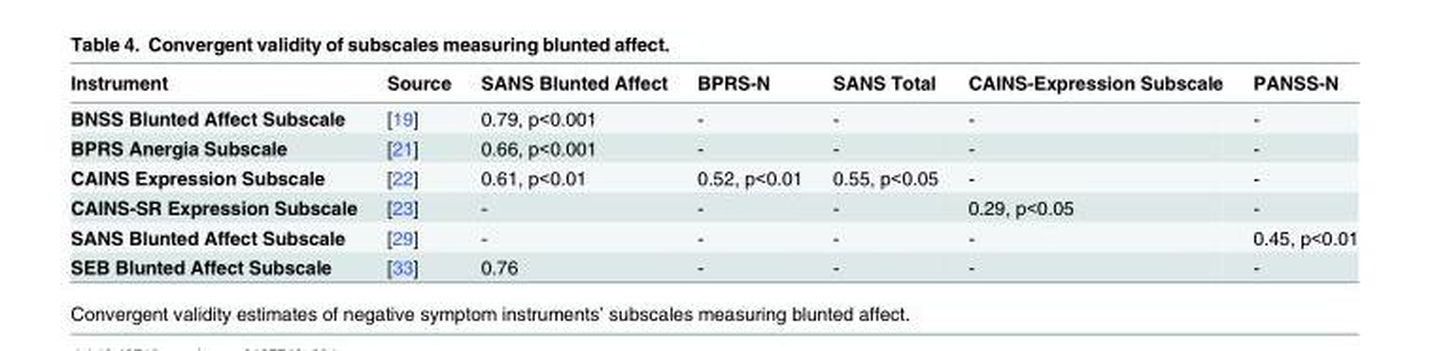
<table><thead><tr><td>Instrument</td><td>Source</td><td>SANS Blunted Affect</td><td>BPRS-N</td><td>SANS Total</td><td>CAINS-Expression Subscale</td><td>PANSS-N</td></tr></thead><tbody><tr><td>BNSS Blunted Affect Subscale</td><td>[19]</td><td>0.79, p&lt;0.001</td><td>-</td><td>-</td><td>-</td><td>-</td></tr><tr><td>BPRS Anergia Subscale</td><td>[21]</td><td>0.66, p&lt;0.001</td><td>-</td><td>-</td><td>-</td><td>-</td></tr><tr><td>CAINS Expression Subscale</td><td>[22]</td><td>0.61, p&lt;0.01</td><td>0.52, p&lt;0.01</td><td>0.55, p&lt;0.05</td><td>-</td><td>-</td></tr><tr><td>CAINS-SR Expression Subscale</td><td>[23]</td><td>-</td><td>-</td><td>-</td><td>0.29, p&lt;0.05</td><td>-</td></tr><tr><td>SANS Blunted Affect Subscale</td><td>[29]</td><td>-</td><td>-</td><td>-</td><td>-</td><td>0.45, p&lt;0.01</td></tr><tr><td>SEB Blunted Affect Subscale</td><td>[33]</td><td>0.76</td><td>-</td><td>-</td><td>-</td><td>-</td></tr></tbody></table>